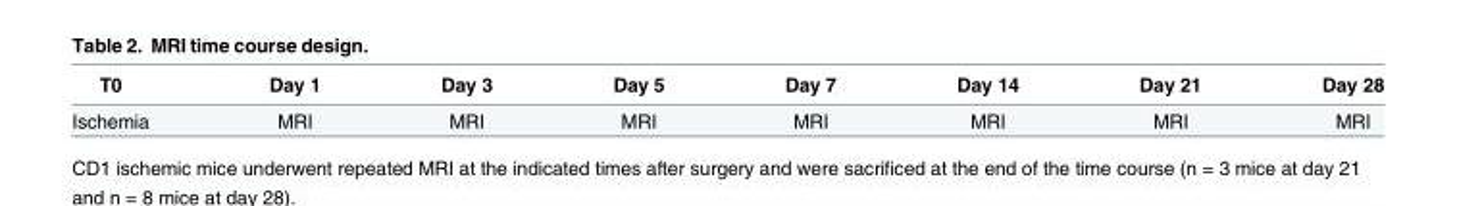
<table><thead><tr><td>T0</td><td>Day 1</td><td>Day 3</td><td>Day 5</td><td>Day 7</td><td>Day 14</td><td>Day 21</td><td>Day 28</td></tr></thead><tbody><tr><td>Ischemia</td><td>MRI</td><td>MRI</td><td>MRI</td><td>MRI</td><td>MRI</td><td>MRI</td><td>MRI</td></tr></tbody></table>